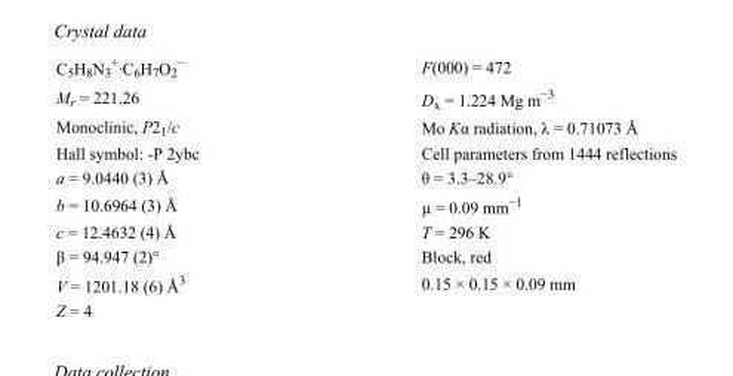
<table><tbody><tr><td>C<sub>5</sub>H<sub>8</sub>N<sub>3</sub> <sup>+</sup>·C<sub>6</sub>H<sub>7</sub>O<sub>2</sub> <sup>−</sup></td><td>F(000) = 472</td></tr><tr><td>M<sub>r</sub> = 221.26</td><td>D<sub>x</sub> = 1.224 Mg m<sup>−3</sup></td></tr><tr><td>Monoclinic, P2<sub>1</sub>/c</td><td>Mo Kα radiation, λ = 0.71073 Å</td></tr><tr><td>Hall symbol: -P 2ybc</td><td>Cell parameters from 1444 reflections</td></tr><tr><td>a = 9.0440 (3) Å</td><td>θ = 3.3–28.9°</td></tr><tr><td>b = 10.6964 (3) Å</td><td>µ = 0.09 mm<sup>−1</sup></td></tr><tr><td>c = 12.4632 (4) Å</td><td>T = 296 K</td></tr><tr><td>β = 94.947 (2)°</td><td>Block, red</td></tr><tr><td>V = 1201.18 (6) Å<sup>3</sup></td><td>0.15 × 0.15 × 0.09 mm</td></tr><tr><td>Z = 4</td><td></td></tr></tbody></table>